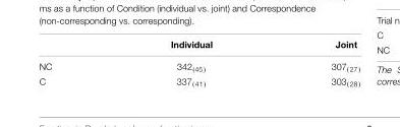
<table><thead><tr><td></td><td>Individual</td><td>Joint</td></tr></thead><tbody><tr><td>NC</td><td>342<sub>(45)</sub></td><td>307<sub>(27)</sub></td></tr><tr><td>C</td><td>337<sub>(41)</sub></td><td>303<sub>(28)</sub></td></tr></tbody></table>